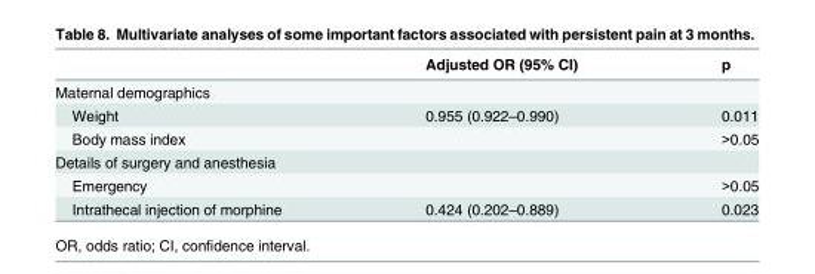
<table><thead><tr><td></td><td>Adjusted OR (95% CI)</td><td>p</td></tr></thead><tbody><tr><td colspan="3">Maternal demographics</td></tr><tr><td>Weight</td><td>0.955 (0.922–0.990)</td><td>0.011</td></tr><tr><td>Body mass index</td><td></td><td>&gt;0.05</td></tr><tr><td colspan="3">Details of surgery and anesthesia</td></tr><tr><td>Emergency</td><td></td><td>&gt;0.05</td></tr><tr><td>Intrathecal injection of morphine</td><td>0.424 (0.202–0.889)</td><td>0.023</td></tr></tbody></table>